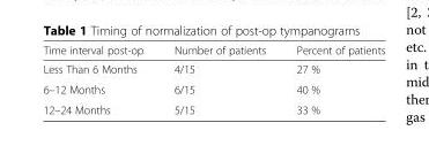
<table><thead><tr><td>Time interval post-op</td><td>Number of patients</td><td>Percent of patients</td></tr></thead><tbody><tr><td>Less Than 6 Months</td><td>4/15</td><td>27 %</td></tr><tr><td>6–12 Months</td><td>6/15</td><td>40 %</td></tr><tr><td>12–24 Months</td><td>5/15</td><td>33 %</td></tr></tbody></table>